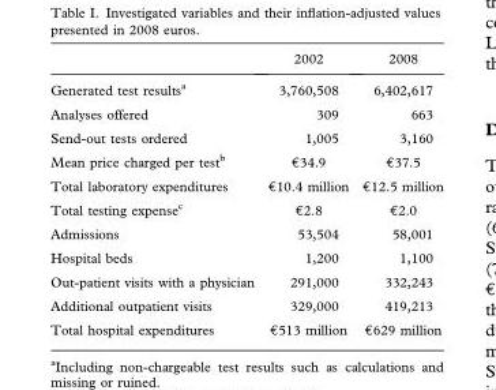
<table><thead><tr><td></td><td>2002</td><td>2008</td></tr></thead><tbody><tr><td>Generated test results<sup>a</sup></td><td>3,760,508</td><td>6,402,617</td></tr><tr><td>Analyses offered</td><td>309</td><td>663</td></tr><tr><td>Send-out tests ordered</td><td>1,005</td><td>3,160</td></tr><tr><td>Mean price charged per test<sup>b</sup></td><td>€34.9</td><td>€37.5</td></tr><tr><td>Total laboratory expenditures</td><td>€10.4 million</td><td>€12.5 million</td></tr><tr><td>Total testing expense<sup>c</sup></td><td>€2.8</td><td>€2.0</td></tr><tr><td>Admissions</td><td>53,504</td><td>58,001</td></tr><tr><td>Hospital beds</td><td>1,200</td><td>1,100</td></tr><tr><td>Out-patient visits with a physician</td><td>291,000</td><td>332,243</td></tr><tr><td>Additional outpatient visits</td><td>329,000</td><td>419,213</td></tr><tr><td>Total hospital expenditures</td><td>€513 million</td><td>€629 million</td></tr></tbody></table>